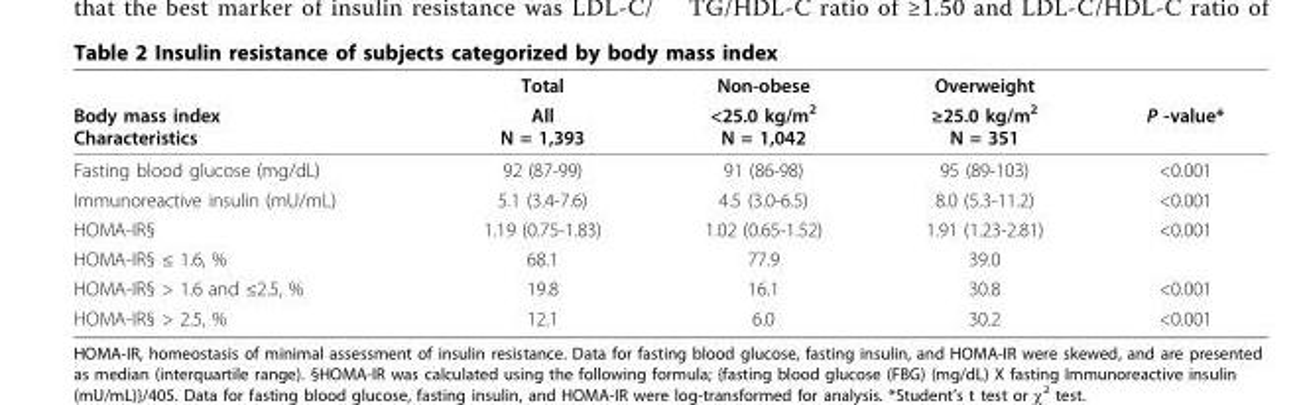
<table><thead><tr><td rowspan="2">Body mass index Characteristics</td><td rowspan="2">Total All N = 1,393</td><td rowspan="2">Non-obese &lt;25.0 kg/m<sup>2</sup> N = 1,042</td><td rowspan="2">Overweight ≥25.0 kg/m<sup>2</sup> N = 351</td><td rowspan="2">P -value*</td></tr><tr></tr></thead><tbody><tr><td>Fasting blood glucose (mg/dL)</td><td>92 (87-99)</td><td>91 (86-98)</td><td>95 (89-103)</td><td>&lt;0.001</td></tr><tr><td>Immunoreactive insulin (mU/mL)</td><td>5.1 (3.4-7.6)</td><td>4.5 (3.0-6.5)</td><td>8.0 (5.3-11.2)</td><td>&lt;0.001</td></tr><tr><td>HOMA-IR§</td><td>1.19 (0.75-1.83)</td><td>1.02 (0.65-1.52)</td><td>1.91 (1.23-2.81)</td><td>&lt;0.001</td></tr><tr><td>HOMA-IR§ ≤ 1.6, %</td><td>68.1</td><td>77.9</td><td>39.0</td><td></td></tr><tr><td>HOMA-IR§ &gt; 1.6 and ≤2.5, %</td><td>19.8</td><td>16.1</td><td>30.8</td><td>&lt;0.001</td></tr><tr><td>HOMA-IR§ &gt; 2.5, %</td><td>12.1</td><td>6.0</td><td>30.2</td><td>&lt;0.001</td></tr></tbody></table>